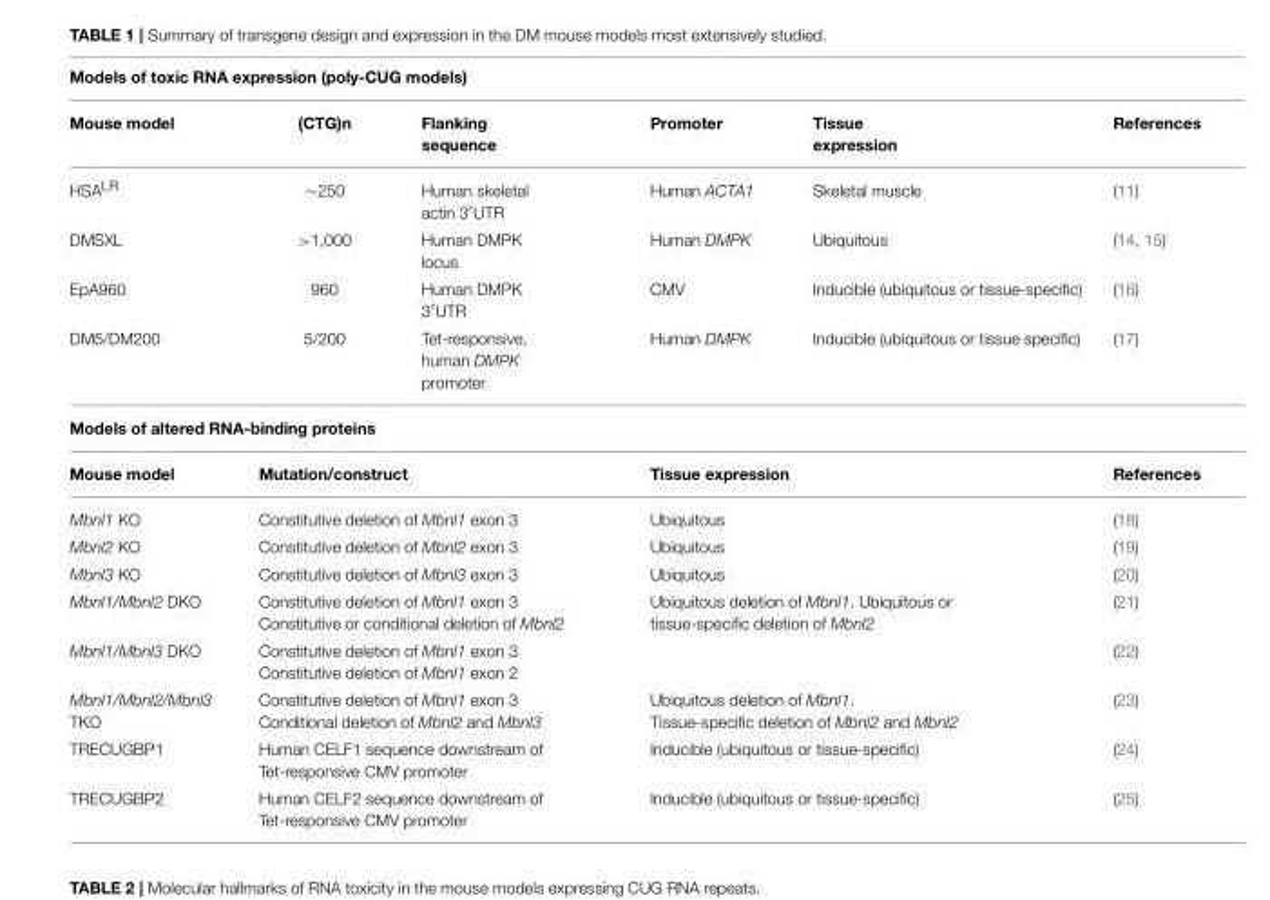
<table><thead><tr><td colspan="6">Models of toxic RNA expression (poly-CUG models)</td></tr><tr><td>Mouse model</td><td>(CTG)n</td><td>Flanking sequence</td><td>Promoter</td><td>Tissue expression</td><td>References</td></tr></thead><tbody><tr><td>HSA<sup>LR</sup></td><td>∼250</td><td>Human skeletal actin 3′UTR</td><td>Human ACTA1</td><td>Skeletal muscle</td><td>(11)</td></tr><tr><td>DMSXL</td><td>&gt;1,000</td><td>Human DMPK locus</td><td>Human DMPK</td><td>Ubiquitous</td><td>(14, 15)</td></tr><tr><td>EpA960</td><td>960</td><td>Human DMPK 3′UTR</td><td>CMV</td><td>Inducible (ubiquitous or tissue-specific)</td><td>(16)</td></tr><tr><td>DM5/DM200</td><td>5/200</td><td>Tet-responsive, human DMPK promoter</td><td>Human DMPK</td><td>Inducible (ubiquitous or tissue specific)</td><td>(17)</td></tr><tr><td colspan="6">Models of altered RNA-binding proteins</td></tr><tr><td>Mouse model</td><td colspan="2">Mutation/construct</td><td colspan="2">Tissue expression</td><td>References</td></tr><tr><td>Mbnl1 KO</td><td colspan="2">Constitutive deletion of Mbnl1 exon 3</td><td colspan="2">Ubiquitous</td><td>(18)</td></tr><tr><td>Mbnl2 KO</td><td colspan="2">Constitutive deletion of Mbnl2 exon 3</td><td colspan="2">Ubiquitous</td><td>(19)</td></tr><tr><td>Mbnl3 KO</td><td colspan="2">Constitutive deletion of Mbnl3 exon 3</td><td colspan="2">Ubiquitous</td><td>(20)</td></tr><tr><td>Mbnl1/Mbnl2 DKO</td><td colspan="2">Constitutive deletion of Mbnl1 exon 3 Constitutive or conditional deletion of Mbnl2</td><td colspan="2">Ubiquitous deletion of Mbnl1. Ubiquitous or tissue-specific deletion of Mbnl2</td><td>(21)</td></tr><tr><td>Mbnl1/Mbnl3 DKO</td><td colspan="2">Constitutive deletion of Mbnl1 exon 3 Constitutive deletion of Mbnl1 exon 2</td><td colspan="2"></td><td>(22)</td></tr><tr><td>Mbnl1/Mbnl2/Mbnl3 TKO</td><td colspan="2">Constitutive deletion of Mbnl1 exon 3 Conditional deletion of Mbnl2 and Mbnl3</td><td colspan="2">Ubiquitous deletion of Mbnl1. Tissue-specific deletion of Mbnl2 and Mbnl2</td><td>(23)</td></tr><tr><td>TRECUGBP1</td><td colspan="2">Human CELF1 sequence downstream of Tet-responsive CMV promoter</td><td colspan="2">Inducible (ubiquitous or tissue-specific)</td><td>(24)</td></tr><tr><td>TRECUGBP2</td><td colspan="2">Human CELF2 sequence downstream of Tet-responsive CMV promoter</td><td colspan="2">Inducible (ubiquitous or tissue-specific)</td><td>(25)</td></tr></tbody></table>